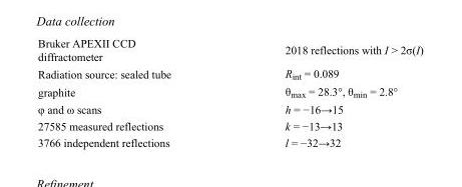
<table><tbody><tr><td>Bruker APEXII CCD diffractometer</td><td>2018 reflections with I &gt; 2σ(I)</td></tr><tr><td>Radiation source: sealed tube</td><td>R<sub>int</sub> = 0.089</td></tr><tr><td>graphite</td><td>θ<sub>max</sub> = 28.3°, θ<sub>min</sub> = 2.8°</td></tr><tr><td>φ and ω scans</td><td>h = −16→15</td></tr><tr><td>27585 measured reflections</td><td>k = −13→13</td></tr><tr><td>3766 independent reflections</td><td>l = −32→32</td></tr></tbody></table>